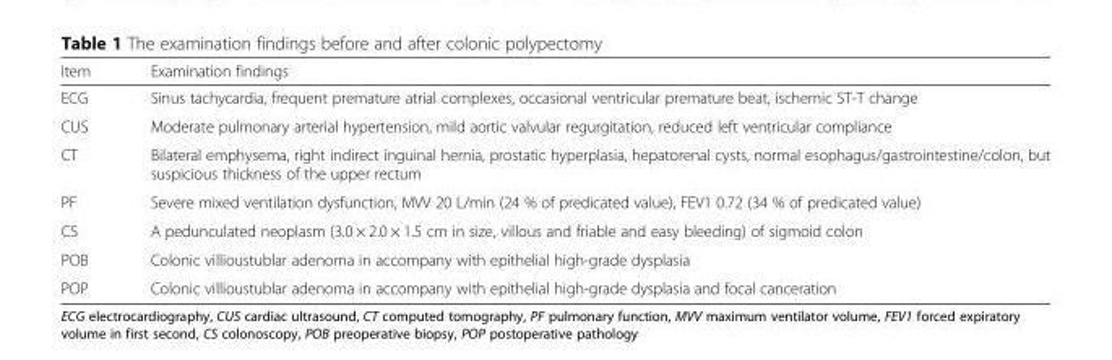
<table><thead><tr><td>Item</td><td>Examination findings</td></tr></thead><tbody><tr><td>ECG</td><td>Sinus tachycardia, frequent premature atrial complexes, occasional ventricular premature beat, ischemic ST-T change</td></tr><tr><td>CUS</td><td>Moderate pulmonary arterial hypertension, mild aortic valvular regurgitation, reduced left ventricular compliance</td></tr><tr><td>CT</td><td>Bilateral emphysema, right indirect inguinal hernia, prostatic hyperplasia, hepatorenal cysts, normal esophagus/gastrointestine/colon, but suspicious thickness of the upper rectum</td></tr><tr><td>PF</td><td>Severe mixed ventilation dysfunction, MVV 20 L/min (24 % of predicated value), FEV1 0.72 (34 % of predicated value)</td></tr><tr><td>CS</td><td>A pedunculated neoplasm (3.0 × 2.0 × 1.5 cm in size, villous and friable and easy bleeding) of sigmoid colon</td></tr><tr><td>POB</td><td>Colonic villioustublar adenoma in accompany with epithelial high-grade dysplasia</td></tr><tr><td>POP</td><td>Colonic villioustublar adenoma in accompany with epithelial high-grade dysplasia and focal canceration</td></tr></tbody></table>